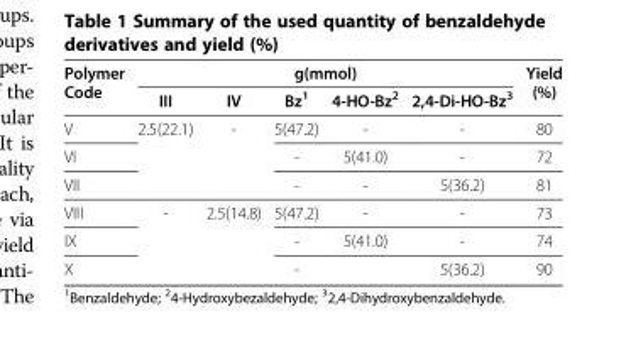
<table><thead><tr><td rowspan="2">Polymer Code</td><td colspan="5">g(mmol)</td><td rowspan="2">Yield (%)</td></tr><tr><td>III</td><td>IV</td><td>Bz<sup>1</sup></td><td>4-HO-Bz<sup>2</sup></td><td>2,4-Di-HO-Bz<sup>3</sup></td></tr></thead><tbody><tr><td>V</td><td rowspan="3">2.5(22.1)</td><td rowspan="3">-</td><td>5(47.2)</td><td>-</td><td>-</td><td>80</td></tr><tr><td>VI</td><td>-</td><td>5(41.0)</td><td>-</td><td>72</td></tr><tr><td>VII</td><td>-</td><td>-</td><td>5(36.2)</td><td>81</td></tr><tr><td>VIII</td><td rowspan="3">-</td><td rowspan="3">2.5(14.8)</td><td>5(47.2)</td><td>-</td><td>-</td><td>73</td></tr><tr><td>IX</td><td>-</td><td>5(41.0)</td><td>-</td><td>74</td></tr><tr><td>X</td><td>-</td><td></td><td>5(36.2)</td><td>90</td></tr></tbody></table>